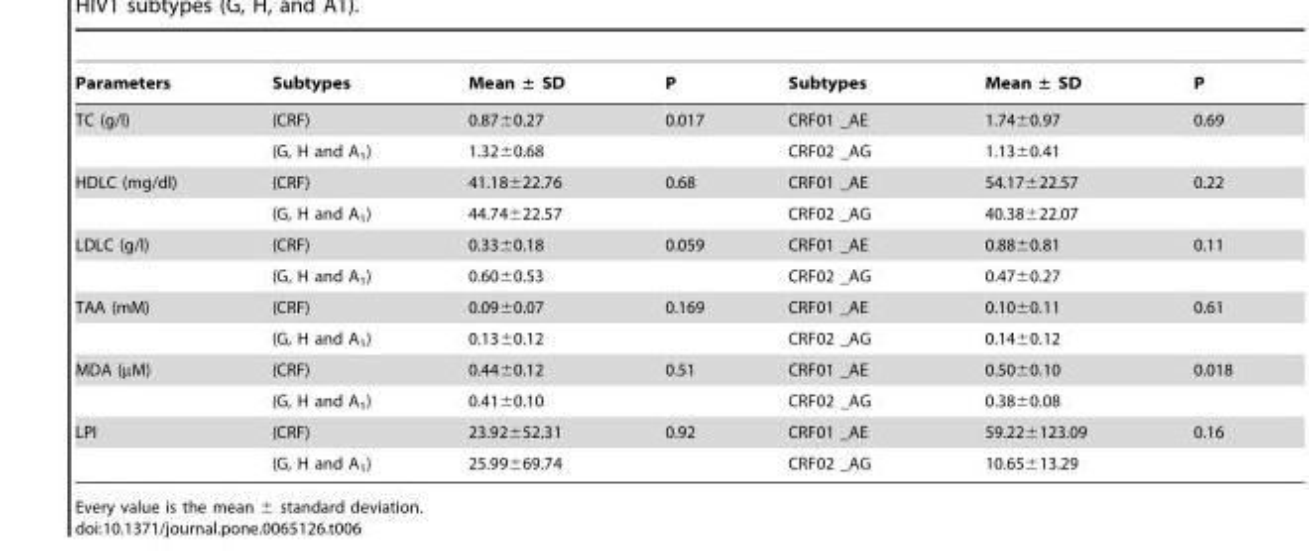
<table><thead><tr><td>Parameters</td><td>Subtypes</td><td>Mean ± SD</td><td>P</td><td>Subtypes</td><td>Mean ± SD</td><td>P</td></tr></thead><tbody><tr><td rowspan="2">TC (g/l)</td><td>(CRF)</td><td>0.87±0.27</td><td>0.017</td><td>CRF01 _AE</td><td>1.74±0.97</td><td>0.69</td></tr><tr><td>(G, H and A<sub>1</sub>)</td><td>1.32±0.68</td><td></td><td>CRF02 _AG</td><td>1.13±0.41</td><td></td></tr><tr><td rowspan="2">HDLC (mg/dl)</td><td>(CRF)</td><td>41.18±22.76</td><td>0.68</td><td>CRF01 _AE</td><td>54.17±22.57</td><td>0.22</td></tr><tr><td>(G, H and A<sub>1</sub>)</td><td>44.74±22.57</td><td></td><td>CRF02 _AG</td><td>40.38±22.07</td><td></td></tr><tr><td rowspan="2">LDLC (g/l)</td><td>(CRF)</td><td>0.33±0.18</td><td>0.059</td><td>CRF01 _AE</td><td>0.88±0.81</td><td>0.11</td></tr><tr><td>(G, H and A<sub>1</sub>)</td><td>0.60±0.53</td><td></td><td>CRF02 _AG</td><td>0.47±0.27</td><td></td></tr><tr><td rowspan="2">TAA (mM)</td><td>(CRF)</td><td>0.09±0.07</td><td>0.169</td><td>CRF01 _AE</td><td>0.10±0.11</td><td>0.61</td></tr><tr><td>(G, H and A<sub>1</sub>)</td><td>0.13±0.12</td><td></td><td>CRF02 _AG</td><td>0.14±0.12</td><td></td></tr><tr><td rowspan="2">MDA (µM)</td><td>(CRF)</td><td>0.44±0.12</td><td>0.51</td><td>CRF01 _AE</td><td>0.50±0.10</td><td>0.018</td></tr><tr><td>(G, H and A<sub>1</sub>)</td><td>0.41±0.10</td><td></td><td>CRF02 _AG</td><td>0.38±0.08</td><td></td></tr><tr><td rowspan="2">LPI</td><td>(CRF)</td><td>23.92±52.31</td><td>0.92</td><td>CRF01 _AE</td><td>59.22±123.09</td><td>0.16</td></tr><tr><td>(G, H and A<sub>1</sub>)</td><td>25.99±69.74</td><td></td><td>CRF02 _AG</td><td>10.65±13.29</td><td></td></tr></tbody></table>